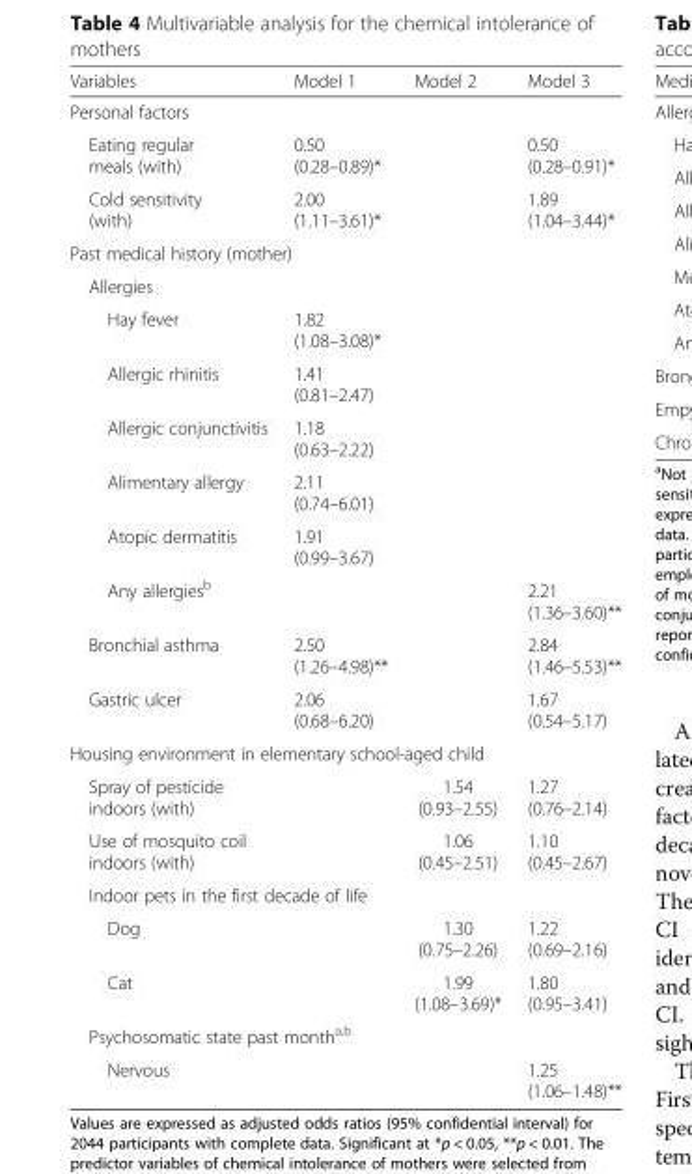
<table><thead><tr><td>Variables</td><td>Model 1</td><td>Model 2</td><td>Model 3</td></tr></thead><tbody><tr><td colspan="4">Personal factors</td></tr><tr><td>Eating regular meals (with)</td><td>0.50 (0.28–0.89)*</td><td></td><td>0.50 (0.28–0.91)*</td></tr><tr><td>Cold sensitivity (with)</td><td>2.00 (1.11–3.61)*</td><td></td><td>1.89 (1.04–3.44)*</td></tr><tr><td colspan="4">Past medical history (mother)</td></tr><tr><td colspan="4">Allergies</td></tr><tr><td>Hay fever</td><td>1.82 (1.08–3.08)*</td><td></td><td></td></tr><tr><td>Allergic rhinitis</td><td>1.41 (0.81–2.47)</td><td></td><td></td></tr><tr><td>Allergic conjunctivitis</td><td>1.18 (0.63–2.22)</td><td></td><td></td></tr><tr><td>Alimentary allergy</td><td>2.11 (0.74–6.01)</td><td></td><td></td></tr><tr><td>Atopic dermatitis</td><td>1.91 (0.99–3.67)</td><td></td><td></td></tr><tr><td>Any allergies<sup>b</sup></td><td></td><td></td><td>2.21 (1.36–3.60)**</td></tr><tr><td>Bronchial asthma</td><td>2.50 (1.26–4.98)**</td><td></td><td>2.84 (1.46–5.53)**</td></tr><tr><td>Gastric ulcer</td><td>2.06 (0.68–6.20)</td><td></td><td>1.67 (0.54–5.17)</td></tr><tr><td colspan="4">Housing environment in elementary school-aged child</td></tr><tr><td>Spray of pesticide indoors (with)</td><td></td><td>1.54 (0.93–2.55)</td><td>1.27 (0.76–2.14)</td></tr><tr><td>Use of mosquito coil indoors (with)</td><td></td><td>1.06 (0.45–2.51)</td><td>1.10 (0.45–2.67)</td></tr><tr><td colspan="4">Indoor pets in the first decade of life</td></tr><tr><td>Dog</td><td></td><td>1.30 (0.75–2.26)</td><td>1.22 (0.69–2.16)</td></tr><tr><td>Cat</td><td></td><td>1.99 (1.08–3.69)*</td><td>1.80 (0.95–3.41)</td></tr><tr><td colspan="4">Psychosomatic state past month<sup>a,b</sup></td></tr><tr><td>Nervous</td><td></td><td></td><td>1.25 (1.06–1.48)**</td></tr></tbody></table>